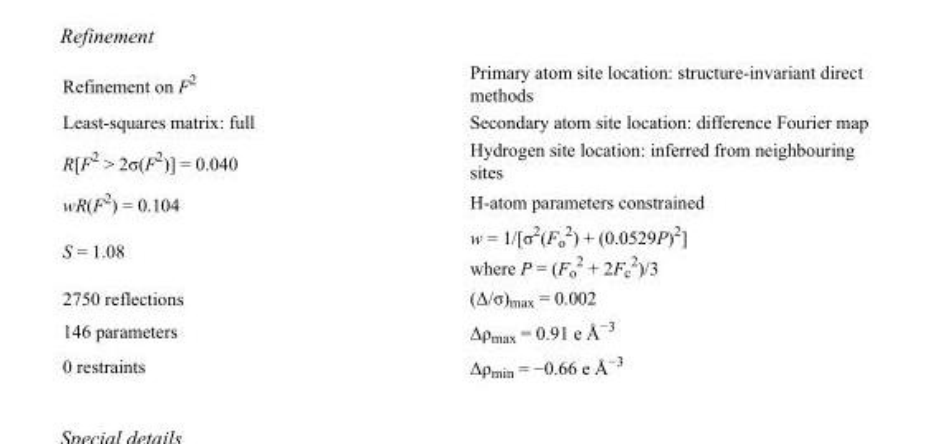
<table><tbody><tr><td>Refinement on F<sup>2</sup></td><td>Primary atom site location: structure-invariant direct methods</td></tr><tr><td>Least-squares matrix: full</td><td>Secondary atom site location: difference Fourier map</td></tr><tr><td>R[F<sup>2</sup> &gt; 2σ(F<sup>2</sup>)] = 0.040</td><td>Hydrogen site location: inferred from neighbouring sites</td></tr><tr><td>wR(F<sup>2</sup>) = 0.104</td><td>H-atom parameters constrained</td></tr><tr><td>S = 1.08</td><td>w = 1/[σ<sup>2</sup>(F<sub>o</sub> <sup>2</sup>) + (0.0529P)<sup>2</sup>] where P = (F<sub>o</sub> <sup>2</sup> + 2F<sub>c</sub> <sup>2</sup>)/3</td></tr><tr><td>2750 reflections</td><td>(Δ/σ)<sub>max</sub> = 0.002</td></tr><tr><td>146 parameters</td><td>Δρ<sub>max</sub> = 0.91 e Å<sup>−3</sup></td></tr><tr><td>0 restraints</td><td>Δρ<sub>min</sub> = −0.66 e Å<sup>−3</sup></td></tr></tbody></table>